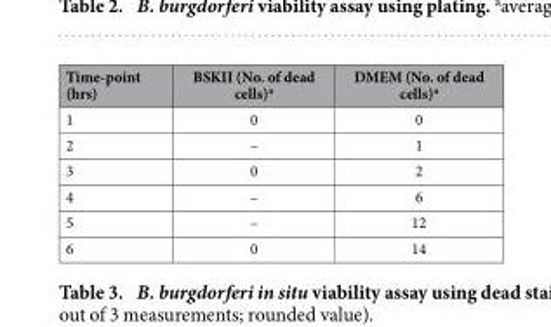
<table><thead><tr><td>Time-point (hrs)</td><td>BSKII (No. of dead cells)<sup>a</sup></td><td>DMEM (No. of dead cells)<sup>a</sup></td></tr></thead><tbody><tr><td>1</td><td>0</td><td>0</td></tr><tr><td>2</td><td>–</td><td>1</td></tr><tr><td>3</td><td>0</td><td>2</td></tr><tr><td>4</td><td>–</td><td>6</td></tr><tr><td>5</td><td>–</td><td>12</td></tr><tr><td>6</td><td>0</td><td>14</td></tr></tbody></table>